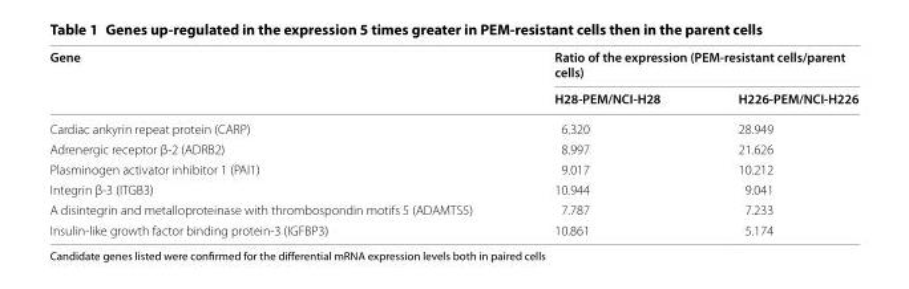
<table><thead><tr><td rowspan="2">Gene</td><td colspan="2">Ratio of the expression (PEM‑resistant cells/parent cells)</td></tr><tr><td>H28‑PEM/NCI‑H28</td><td>H226‑PEM/NCI‑H226</td></tr></thead><tbody><tr><td>Cardiac ankyrin repeat protein (CARP)</td><td>6.320</td><td>28.949</td></tr><tr><td>Adrenergic receptor β-2 (ADRB2)</td><td>8.997</td><td>21.626</td></tr><tr><td>Plasminogen activator inhibitor 1 (PAI1)</td><td>9.017</td><td>10.212</td></tr><tr><td>Integrin β-3 (ITGB3)</td><td>10.944</td><td>9.041</td></tr><tr><td>A disintegrin and metalloproteinase with thrombospondin motifs 5 (ADAMTS5)</td><td>7.787</td><td>7.233</td></tr><tr><td>Insulin-like growth factor binding protein-3 (IGFBP3)</td><td>10.861</td><td>5.174</td></tr></tbody></table>